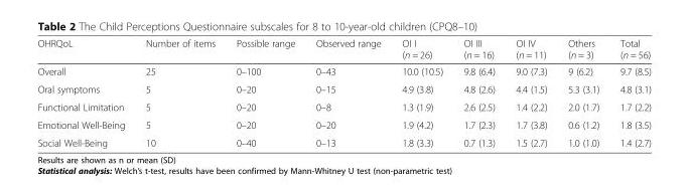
<table><thead><tr><td>OHRQoL</td><td>Number of items</td><td>Possible range</td><td>Observed range</td><td>OI I (n = 26)</td><td>OI III (n = 16)</td><td>OI IV (n = 11)</td><td>Others (n = 3)</td><td>Total (n = 56)</td></tr></thead><tbody><tr><td>Overall</td><td>25</td><td>0–100</td><td>0–43</td><td>10.0 (10.5)</td><td>9.8 (6.4)</td><td>9.0 (7.3)</td><td>9 (6.2)</td><td>9.7 (8.5)</td></tr><tr><td>Oral symptoms</td><td>5</td><td>0–20</td><td>0–15</td><td>4.9 (3.8)</td><td>4.8 (2.6)</td><td>4.4 (1.5)</td><td>5.3 (3.1)</td><td>4.8 (3.1)</td></tr><tr><td>Functional Limitation</td><td>5</td><td>0–20</td><td>0–8</td><td>1.3 (1.9)</td><td>2.6 (2.5)</td><td>1.4 (2.2)</td><td>2.0 (1.7)</td><td>1.7 (2.2)</td></tr><tr><td>Emotional Well-Being</td><td>5</td><td>0–20</td><td>0–20</td><td>1.9 (4.2)</td><td>1.7 (2.3)</td><td>1.7 (3.8)</td><td>0.6 (1.2)</td><td>1.8 (3.5)</td></tr><tr><td>Social Well-Being</td><td>10</td><td>0–40</td><td>0–13</td><td>1.8 (3.3)</td><td>0.7 (1.3)</td><td>1.5 (2.7)</td><td>1.0 (1.0)</td><td>1.4 (2.7)</td></tr></tbody></table>